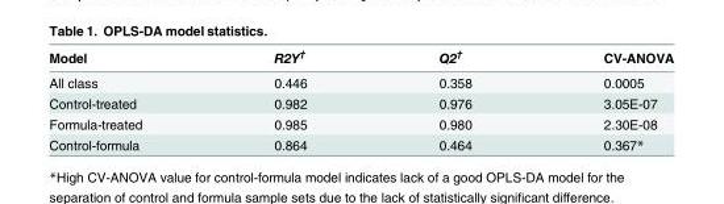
<table><thead><tr><td>Model</td><td>R2Y<sup>†</sup></td><td>Q2<sup>†</sup></td><td>CV-ANOVA</td></tr></thead><tbody><tr><td>All class</td><td>0.446</td><td>0.358</td><td>0.0005</td></tr><tr><td>Control-treated</td><td>0.982</td><td>0.976</td><td>3.05E-07</td></tr><tr><td>Formula-treated</td><td>0.985</td><td>0.980</td><td>2.30E-08</td></tr><tr><td>Control-formula</td><td>0.864</td><td>0.464</td><td>0.367*</td></tr></tbody></table>